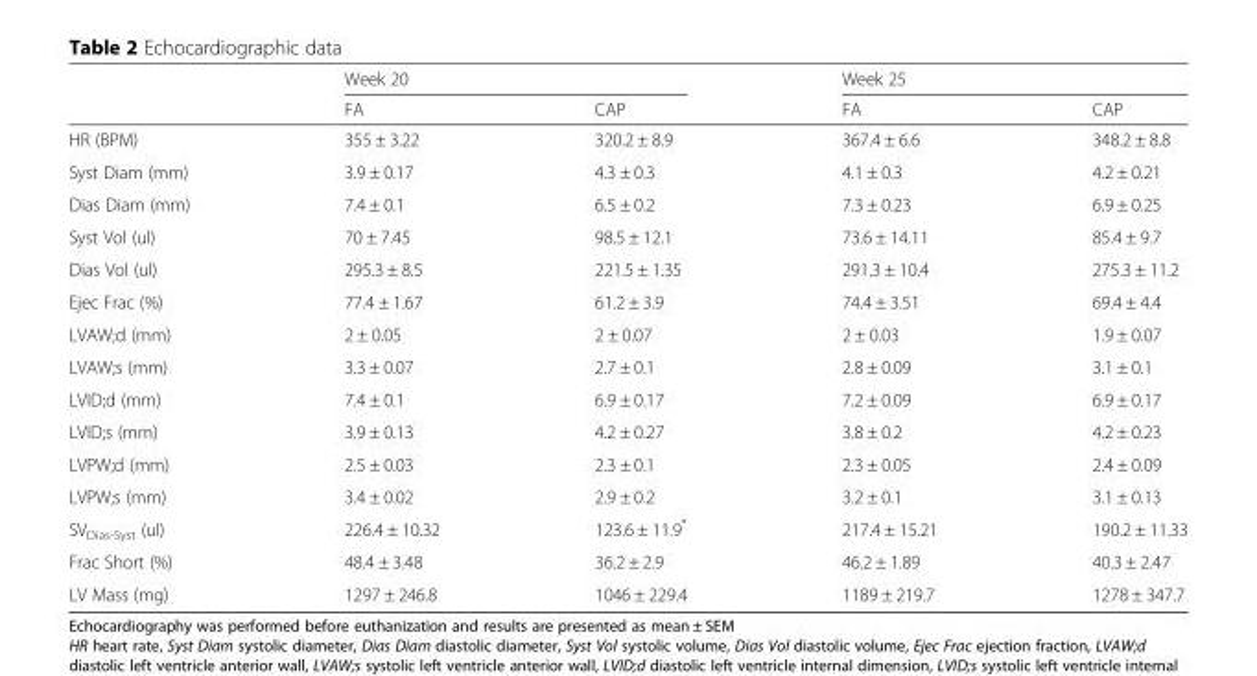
<table><thead><tr><td rowspan="2"></td><td colspan="2">Week 20</td><td colspan="2">Week 25</td></tr><tr><td>FA</td><td>CAP</td><td>FA</td><td>CAP</td></tr></thead><tbody><tr><td>HR (BPM)</td><td>355 ± 3.22</td><td>320.2 ± 8.9</td><td>367.4 ± 6.6</td><td>348.2 ± 8.8</td></tr><tr><td>Syst Diam (mm)</td><td>3.9 ± 0.17</td><td>4.3 ± 0.3</td><td>4.1 ± 0.3</td><td>4.2 ± 0.21</td></tr><tr><td>Dias Diam (mm)</td><td>7.4 ± 0.1</td><td>6.5 ± 0.2</td><td>7.3 ± 0.23</td><td>6.9 ± 0.25</td></tr><tr><td>Syst Vol (ul)</td><td>70 ± 7.45</td><td>98.5 ± 12.1</td><td>73.6 ± 14.11</td><td>85.4 ± 9.7</td></tr><tr><td>Dias Vol (ul)</td><td>295.3 ± 8.5</td><td>221.5 ± 1.35</td><td>291.3 ± 10.4</td><td>275.3 ± 11.2</td></tr><tr><td>Ejec Frac (%)</td><td>77.4 ± 1.67</td><td>61.2 ± 3.9</td><td>74.4 ± 3.51</td><td>69.4 ± 4.4</td></tr><tr><td>LVAW;d (mm)</td><td>2 ± 0.05</td><td>2 ± 0.07</td><td>2 ± 0.03</td><td>1.9 ± 0.07</td></tr><tr><td>LVAW;s (mm)</td><td>3.3 ± 0.07</td><td>2.7 ± 0.1</td><td>2.8 ± 0.09</td><td>3.1 ± 0.1</td></tr><tr><td>LVID;d (mm)</td><td>7.4 ± 0.1</td><td>6.9 ± 0.17</td><td>7.2 ± 0.09</td><td>6.9 ± 0.17</td></tr><tr><td>LVID;s (mm)</td><td>3.9 ± 0.13</td><td>4.2 ± 0.27</td><td>3.8 ± 0.2</td><td>4.2 ± 0.23</td></tr><tr><td>LVPW;d (mm)</td><td>2.5 ± 0.03</td><td>2.3 ± 0.1</td><td>2.3 ± 0.05</td><td>2.4 ± 0.09</td></tr><tr><td>LVPW;s (mm)</td><td>3.4 ± 0.02</td><td>2.9 ± 0.2</td><td>3.2 ± 0.1</td><td>3.1 ± 0.13</td></tr><tr><td>SV<sub>Dias-Syst</sub> (ul)</td><td>226.4 ± 10.32</td><td>123.6 ± 11.9*</td><td>217.4 ± 15.21</td><td>190.2 ± 11.33</td></tr><tr><td>Frac Short (%)</td><td>48.4 ± 3.48</td><td>36.2 ± 2.9</td><td>46.2 ± 1.89</td><td>40.3 ± 2.47</td></tr><tr><td>LV Mass (mg)</td><td>1297 ± 246.8</td><td>1046 ± 229.4</td><td>1189 ± 219.7</td><td>1278 ± 347.7</td></tr></tbody></table>